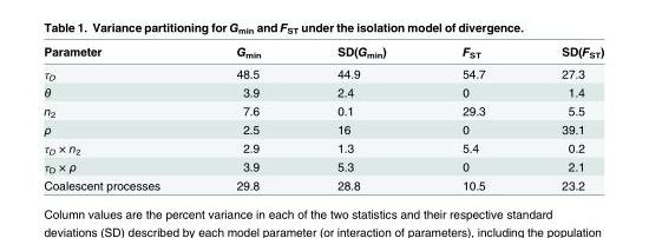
<table><thead><tr><td>Parameter</td><td>G<sub>min</sub></td><td>SD(G<sub>min</sub>)</td><td>F<sub>ST</sub></td><td>SD(F<sub>ST</sub>)</td></tr></thead><tbody><tr><td>τ<sub>D</sub></td><td>48.5</td><td>44.9</td><td>54.7</td><td>27.3</td></tr><tr><td>θ</td><td>3.9</td><td>2.4</td><td>0</td><td>1.4</td></tr><tr><td>n<sub>2</sub></td><td>7.6</td><td>0.1</td><td>29.3</td><td>5.5</td></tr><tr><td>ρ</td><td>2.5</td><td>16</td><td>0</td><td>39.1</td></tr><tr><td>τ<sub>D</sub> × n<sub>2</sub></td><td>2.9</td><td>1.3</td><td>5.4</td><td>0.2</td></tr><tr><td>τ<sub>D</sub> × ρ</td><td>3.9</td><td>5.3</td><td>0</td><td>2.1</td></tr><tr><td>Coalescent processes</td><td>29.8</td><td>28.8</td><td>10.5</td><td>23.2</td></tr></tbody></table>